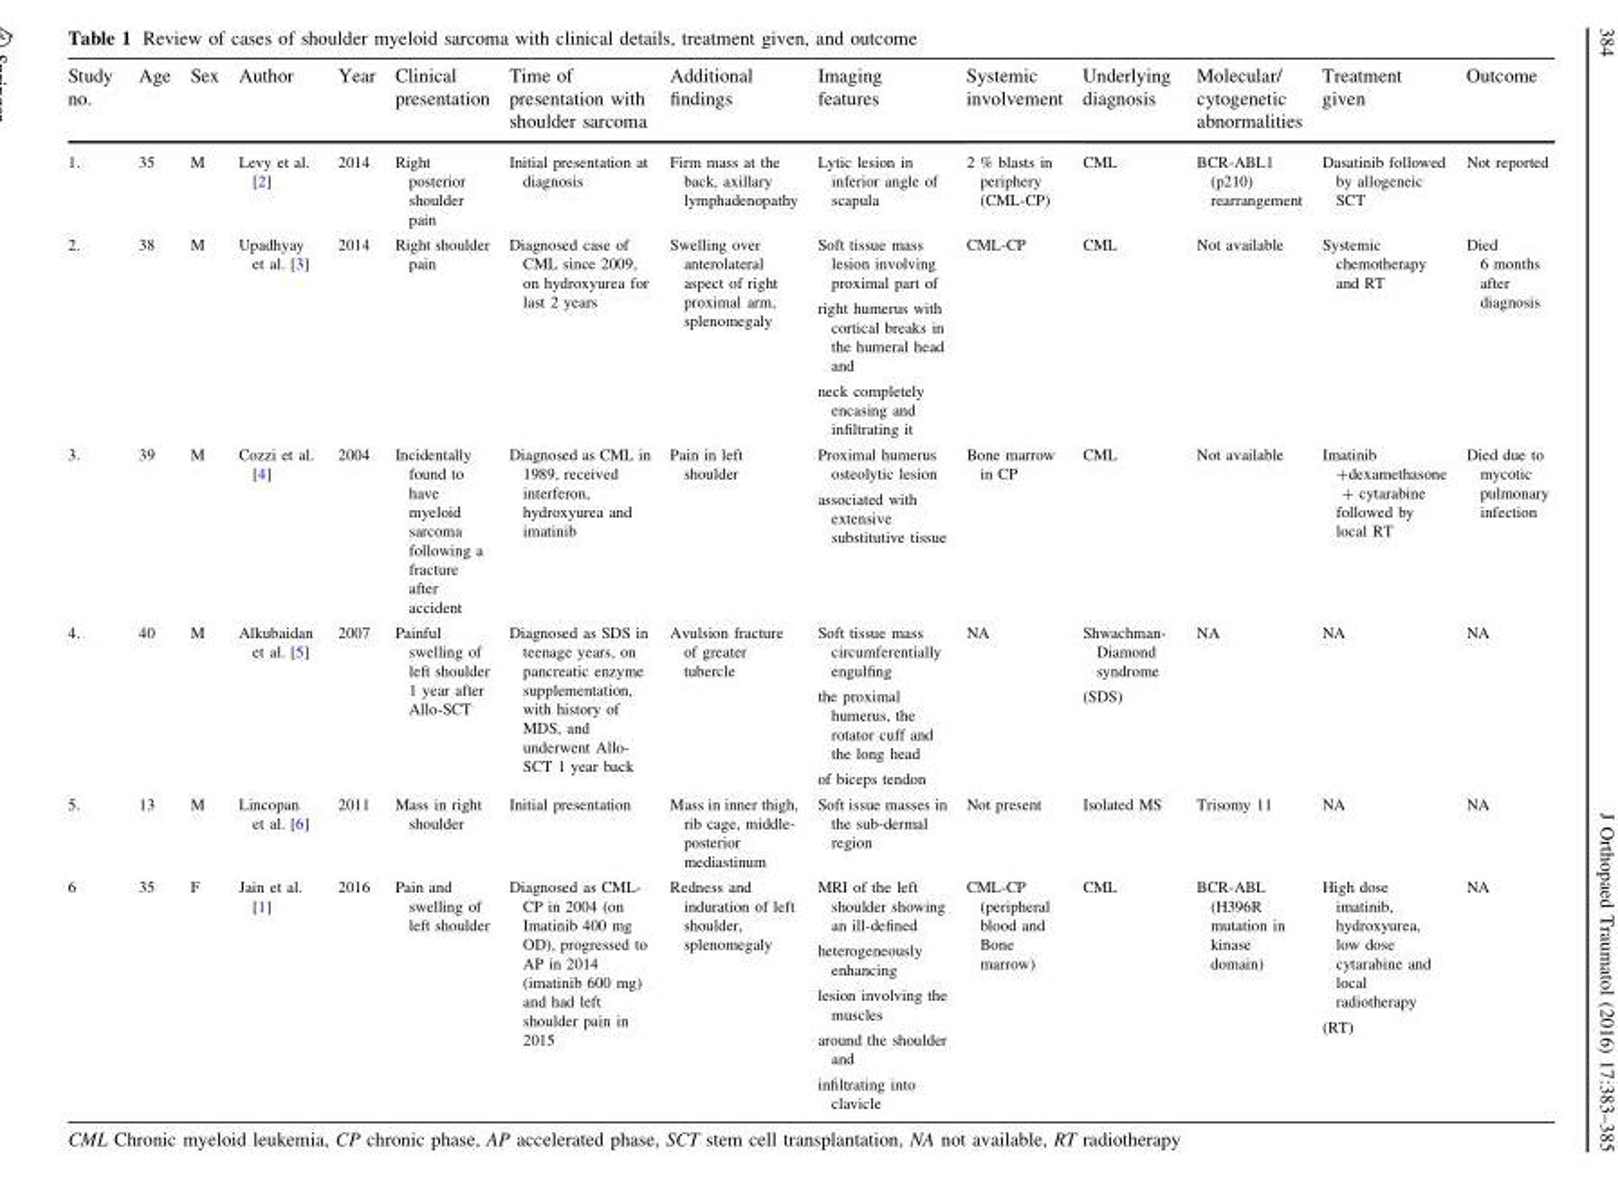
<table><thead><tr><td>Study no.</td><td>Age</td><td>Sex</td><td>Author</td><td>Year</td><td>Clinical presentation</td><td>Time of presentation with shoulder sarcoma</td><td>Additional findings</td><td>Imaging features</td><td>Systemic involvement</td><td>Underlying diagnosis</td><td>Molecular/ cytogenetic abnormalities</td><td>Treatment given</td><td>Outcome</td></tr></thead><tbody><tr><td>1.</td><td>35</td><td>M</td><td>Levy et al. [2]</td><td>2014</td><td>Right posterior shoulder pain</td><td>Initial presentation at diagnosis</td><td>Firm mass at the back, axillary lymphadenopathy</td><td>Lytic lesion in inferior angle of scapula</td><td>2 % blasts in periphery (CML-CP)</td><td>CML</td><td>BCR-ABL1 (p210) rearrangement</td><td>Dasatinib followed by allogeneic SCT</td><td>Not reported</td></tr><tr><td>2.</td><td>38</td><td>M</td><td>Upadhyay et al. [3]</td><td>2014</td><td>Right shoulder pain</td><td>Diagnosed case of CML since 2009, on hydroxyurea for last 2 years</td><td>Swelling over anterolateral aspect of right proximal arm, splenomegaly</td><td>Soft tissue mass lesion involving proximal part of right humerus with cortical breaks in the humeral head and neck completely encasing and infiltrating it</td><td>CML-CP</td><td>CML</td><td>Not available</td><td>Systemic chemotherapy and RT</td><td>Died 6 months after diagnosis</td></tr><tr><td>3.</td><td>39</td><td>M</td><td>Cozzi et al. [4]</td><td>2004</td><td>Incidentally found to have myeloid sarcoma following a fracture after accident</td><td>Diagnosed as CML in 1989, received interferon, hydroxyurea and imatinib</td><td>Pain in left shoulder</td><td>Proximal humerus osteolytic lesion associated with extensive substitutive tissue</td><td>Bone marrow in CP</td><td>CML</td><td>Not available</td><td>Imatinib +dexamethasone + cytarabine followed by local RT</td><td>Died due to mycotic pulmonary infection</td></tr><tr><td>4.</td><td>40</td><td>M</td><td>Alkubaidan et al. [5]</td><td>2007</td><td>Painful swelling of left shoulder 1 year after Allo-SCT</td><td>Diagnosed as SDS in teenage years, on pancreatic enzyme supplementation, with history of MDS, and underwent Allo- SCT 1 year back</td><td>Avulsion fracture of greater tubercle</td><td>Soft tissue mass circumferentially engulfing the proximal humerus, the rotator cuff and the long head of biceps tendon</td><td>NA</td><td>Shwachman- Diamond syndrome (SDS)</td><td>NA</td><td>NA</td><td>NA</td></tr><tr><td>5.</td><td>13</td><td>M</td><td>Lincopan et al. [6]</td><td>2011</td><td>Mass in right shoulder</td><td>Initial presentation</td><td>Mass in inner thigh, rib cage, middle- posterior mediastinum</td><td>Soft issue masses in the sub-dermal region</td><td>Not present</td><td>Isolated MS</td><td>Trisomy 11</td><td>NA</td><td>NA</td></tr><tr><td>6</td><td>35</td><td>F</td><td>Jain et al. [1]</td><td>2016</td><td>Pain and swelling of left shoulder</td><td>Diagnosed as CML- CP in 2004 (on Imatinib 400 mg OD), progressed to AP in 2014 (imatinib 600 mg) and had left shoulder pain in 2015</td><td>Redness and induration of left shoulder, splenomegaly</td><td>MRI of the left shoulder showing an ill-defined heterogeneously enhancing lesion involving the muscles around the shoulder and infiltrating into clavicle</td><td>CML-CP (peripheral blood and Bone marrow)</td><td>CML</td><td>BCR-ABL (H396R mutation in kinase domain)</td><td>High dose imatinib, hydroxyurea, low dose cytarabine and local radiotherapy (RT)</td><td>NA</td></tr></tbody></table>